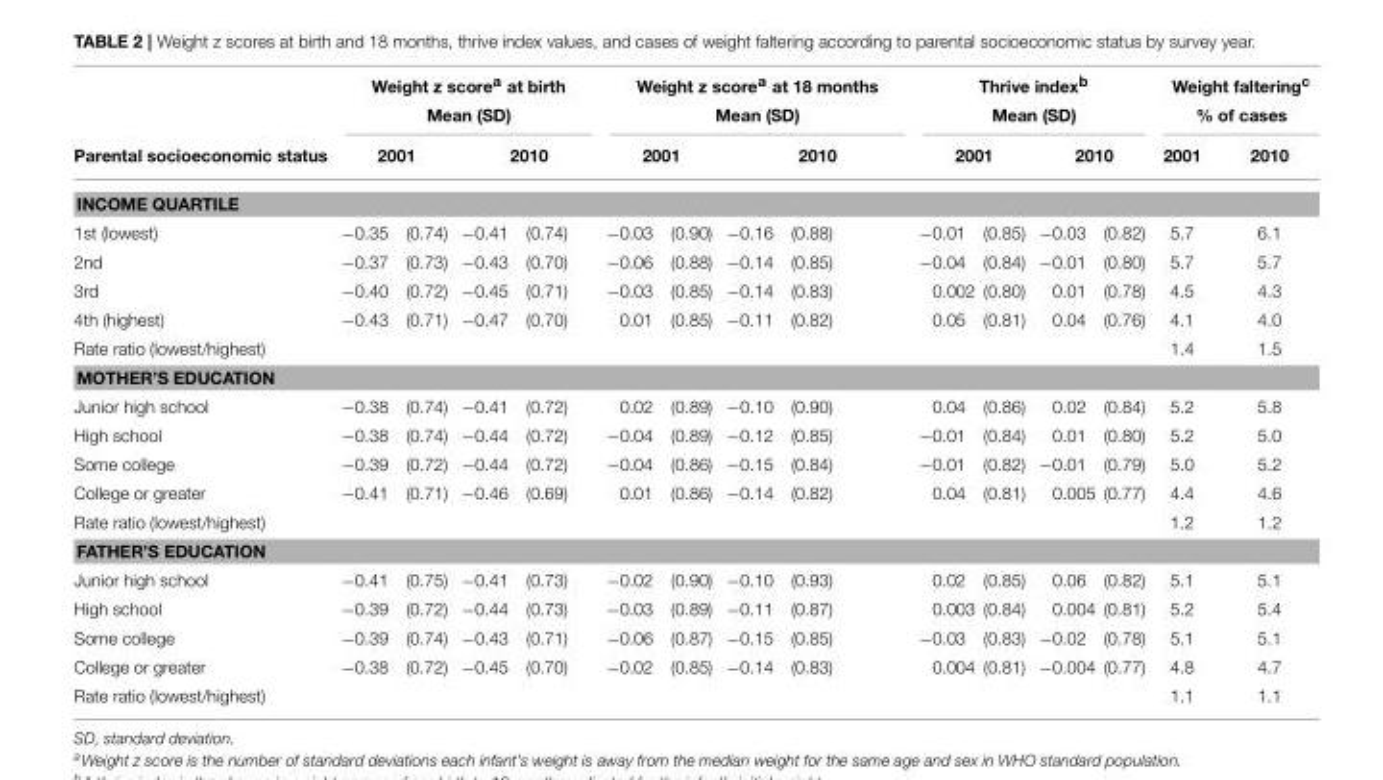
<table><thead><tr><td rowspan="2">Parental socioeconomic status</td><td colspan="4">Weight z score<sup>a</sup> at birth Mean (SD)</td><td colspan="4">Weight z score<sup>a</sup> at 18 months Mean (SD)</td><td colspan="4">Thrive index<sup>b</sup> Mean (SD)</td><td colspan="2">Weight faltering<sup>c</sup> % of cases</td></tr><tr><td colspan="2">2001</td><td colspan="2">2010</td><td colspan="2">2001</td><td colspan="2">2010</td><td colspan="2">2001</td><td colspan="2">2010</td><td>2001</td><td>2010</td></tr><tr><td colspan="15">INCOME QUARTILE</td></tr><tr><td>1st (lowest)</td><td>−0.35</td><td>(0.74)</td><td>−0.41</td><td>(0.74)</td><td>−0.03</td><td>(0.90)</td><td>−0.16</td><td>(0.88)</td><td>−0.01</td><td>(0.85)</td><td>−0.03</td><td>(0.82)</td><td>5.7</td><td>6.1</td></tr></thead><tbody><tr><td>2nd</td><td>−0.37</td><td>(0.73)</td><td>−0.43</td><td>(0.70)</td><td>−0.06</td><td>(0.88)</td><td>−0.14</td><td>(0.85)</td><td>−0.04</td><td>(0.84)</td><td>−0.01</td><td>(0.80)</td><td>5.7</td><td>5.7</td></tr><tr><td>3rd</td><td>−0.40</td><td>(0.72)</td><td>−0.45</td><td>(0.71)</td><td>−0.03</td><td>(0.85)</td><td>−0.14</td><td>(0.83)</td><td>0.002</td><td>(0.80)</td><td>0.01</td><td>(0.78)</td><td>4.5</td><td>4.3</td></tr><tr><td>4th (highest)</td><td>−0.43</td><td>(0.71)</td><td>−0.47</td><td>(0.70)</td><td>0.01</td><td>(0.85)</td><td>−0.11</td><td>(0.82)</td><td>0.05</td><td>(0.81)</td><td>0.04</td><td>(0.76)</td><td>4.1</td><td>4.0</td></tr><tr><td colspan="13">Rate ratio (lowest/highest)</td><td>1.4</td><td>1.5</td></tr><tr><td colspan="15">MOTHER’S EDUCATION</td></tr><tr><td>Junior high school</td><td>−0.38</td><td>(0.74)</td><td>−0.41</td><td>(0.72)</td><td>0.02</td><td>(0.89)</td><td>−0.10</td><td>(0.90)</td><td>0.04</td><td>(0.86)</td><td>0.02</td><td>(0.84)</td><td>5.2</td><td>5.8</td></tr><tr><td>High school</td><td>−0.38</td><td>(0.74)</td><td>−0.44</td><td>(0.72)</td><td>−0.04</td><td>(0.89)</td><td>−0.12</td><td>(0.85)</td><td>−0.01</td><td>(0.84)</td><td>0.01</td><td>(0.80)</td><td>5.2</td><td>5.0</td></tr><tr><td>Some college</td><td>−0.39</td><td>(0.72)</td><td>−0.44</td><td>(0.72)</td><td>−0.04</td><td>(0.86)</td><td>−0.15</td><td>(0.84)</td><td>−0.01</td><td>(0.82)</td><td>−0.01</td><td>(0.79)</td><td>5.0</td><td>5.2</td></tr><tr><td>College or greater</td><td>−0.41</td><td>(0.71)</td><td>−0.46</td><td>(0.69)</td><td>0.01</td><td>(0.86)</td><td>−0.14</td><td>(0.82)</td><td>0.04</td><td>(0.81)</td><td>0.005</td><td>(0.77)</td><td>4.4</td><td>4.6</td></tr><tr><td colspan="13">Rate ratio (lowest/highest)</td><td>1.2</td><td>1.2</td></tr><tr><td colspan="15">FATHER’S EDUCATION</td></tr><tr><td>Junior high school</td><td>−0.41</td><td>(0.75)</td><td>−0.41</td><td>(0.73)</td><td>−0.02</td><td>(0.90)</td><td>−0.10</td><td>(0.93)</td><td>0.02</td><td>(0.85)</td><td>0.06</td><td>(0.82)</td><td>5.1</td><td>5.1</td></tr><tr><td>High school</td><td>−0.39</td><td>(0.72)</td><td>−0.44</td><td>(0.73)</td><td>−0.03</td><td>(0.89)</td><td>−0.11</td><td>(0.87)</td><td>0.003</td><td>(0.84)</td><td>0.004</td><td>(0.81)</td><td>5.2</td><td>5.4</td></tr><tr><td>Some college</td><td>−0.39</td><td>(0.74)</td><td>−0.43</td><td>(0.71)</td><td>−0.06</td><td>(0.87)</td><td>−0.15</td><td>(0.85)</td><td>−0.03</td><td>(0.83)</td><td>−0.02</td><td>(0.78)</td><td>5.1</td><td>5.1</td></tr><tr><td>College or greater</td><td>−0.38</td><td>(0.72)</td><td>−0.45</td><td>(0.70)</td><td>−0.02</td><td>(0.85)</td><td>−0.14</td><td>(0.83)</td><td>0.004</td><td>(0.81)</td><td>−0.004</td><td>(0.77)</td><td>4.8</td><td>4.7</td></tr><tr><td colspan="13">Rate ratio (lowest/highest)</td><td>1.1</td><td>1.1</td></tr></tbody></table>